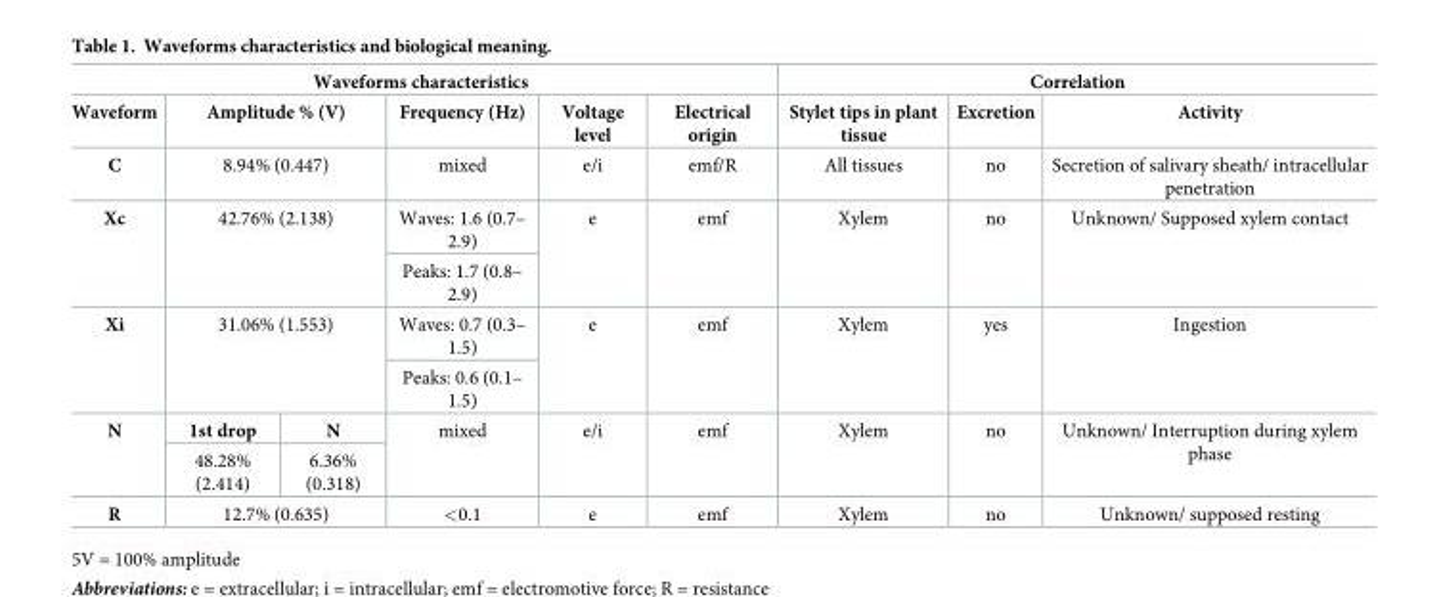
<table><thead><tr><td colspan="6">Waveforms characteristics</td><td colspan="3">Correlation</td></tr><tr><td>Waveform</td><td colspan="2">Amplitude % (V)</td><td>Frequency (Hz)</td><td>Voltage level</td><td>Electrical origin</td><td>Stylet tips in plant tissue</td><td>Excretion</td><td>Activity</td></tr></thead><tbody><tr><td>C</td><td colspan="2">8.94% (0.447)</td><td>mixed</td><td>e/i</td><td>emf/R</td><td>All tissues</td><td>no</td><td>Secretion of salivary sheath/ intracellular penetration</td></tr><tr><td rowspan="2">Xc</td><td rowspan="2" colspan="2">42.76% (2.138)</td><td>Waves: 1.6 (0.7– 2.9)</td><td rowspan="2">e</td><td rowspan="2">emf</td><td rowspan="2">Xylem</td><td rowspan="2">no</td><td rowspan="2">Unknown/ Supposed xylem contact</td></tr><tr><td>Peaks: 1.7 (0.8– 2.9)</td></tr><tr><td rowspan="2">Xi</td><td rowspan="2" colspan="2">31.06% (1.553)</td><td>Waves: 0.7 (0.3– 1.5)</td><td rowspan="2">e</td><td rowspan="2">emf</td><td rowspan="2">Xylem</td><td rowspan="2">yes</td><td rowspan="2">Ingestion</td></tr><tr><td>Peaks: 0.6 (0.1– 1.5)</td></tr><tr><td rowspan="2">N</td><td>1st drop</td><td>N</td><td rowspan="2">mixed</td><td rowspan="2">e/i</td><td rowspan="2">emf</td><td rowspan="2">Xylem</td><td rowspan="2">no</td><td rowspan="2">Unknown/ Interruption during xylem phase</td></tr><tr><td>48.28% (2.414)</td><td>6.36% (0.318)</td></tr><tr><td>R</td><td colspan="2">12.7% (0.635)</td><td>&lt;0.1</td><td>e</td><td>emf</td><td>Xylem</td><td>no</td><td>Unknown/ supposed resting</td></tr></tbody></table>